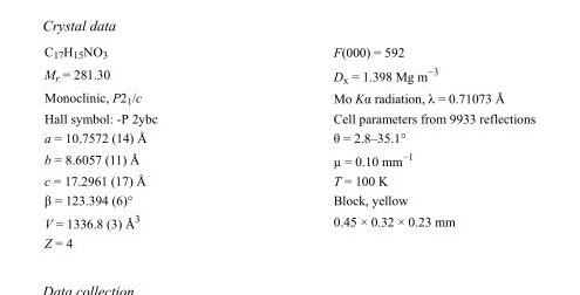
<table><tbody><tr><td>C<sub>17</sub>H<sub>15</sub>NO<sub>3</sub></td><td>F(000) = 592</td></tr><tr><td>M<sub>r</sub> = 281.30</td><td>D<sub>x</sub> = 1.398 Mg m<sup>−3</sup></td></tr><tr><td>Monoclinic, P2<sub>1</sub>/c</td><td>Mo Kα radiation, λ = 0.71073 Å</td></tr><tr><td>Hall symbol: -P 2ybc</td><td>Cell parameters from 9933 reflections</td></tr><tr><td>a = 10.7572 (14) Å</td><td>θ = 2.8–35.1°</td></tr><tr><td>b = 8.6057 (11) Å</td><td>µ = 0.10 mm<sup>−1</sup></td></tr><tr><td>c = 17.2961 (17) Å</td><td>T = 100 K</td></tr><tr><td>β = 123.394 (6)°</td><td>Block, yellow</td></tr><tr><td>V = 1336.8 (3) Å<sup>3</sup></td><td>0.45 × 0.32 × 0.23 mm</td></tr><tr><td>Z = 4</td><td></td></tr></tbody></table>